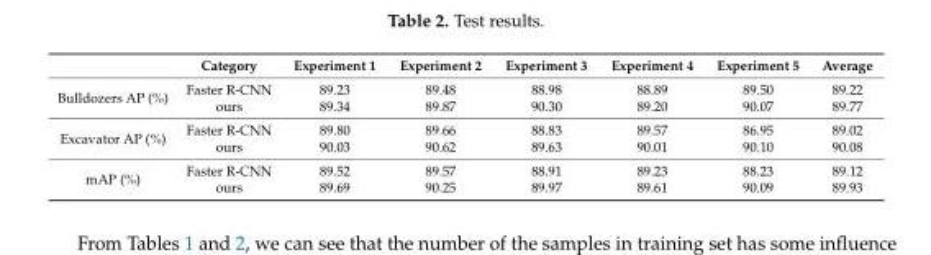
<table><thead><tr><td></td><td>Category</td><td>Experiment 1</td><td>Experiment 2</td><td>Experiment 3</td><td>Experiment 4</td><td>Experiment 5</td><td>Average</td></tr></thead><tbody><tr><td rowspan="2">Bulldozers AP (%)</td><td>Faster R-CNN</td><td>89.23</td><td>89.48</td><td>88.98</td><td>88.89</td><td>89.50</td><td>89.22</td></tr><tr><td>ours</td><td>89.34</td><td>89.87</td><td>90.30</td><td>89.20</td><td>90.07</td><td>89.77</td></tr><tr><td rowspan="2">Excavator AP (%)</td><td>Faster R-CNN</td><td>89.80</td><td>89.66</td><td>88.83</td><td>89.57</td><td>86.95</td><td>89.02</td></tr><tr><td>ours</td><td>90.03</td><td>90.62</td><td>89.63</td><td>90.01</td><td>90.10</td><td>90.08</td></tr><tr><td rowspan="2">mAP (%)</td><td>Faster R-CNN</td><td>89.52</td><td>89.57</td><td>88.91</td><td>89.23</td><td>88.23</td><td>89.12</td></tr><tr><td>ours</td><td>89.69</td><td>90.25</td><td>89.97</td><td>89.61</td><td>90.09</td><td>89.93</td></tr></tbody></table>